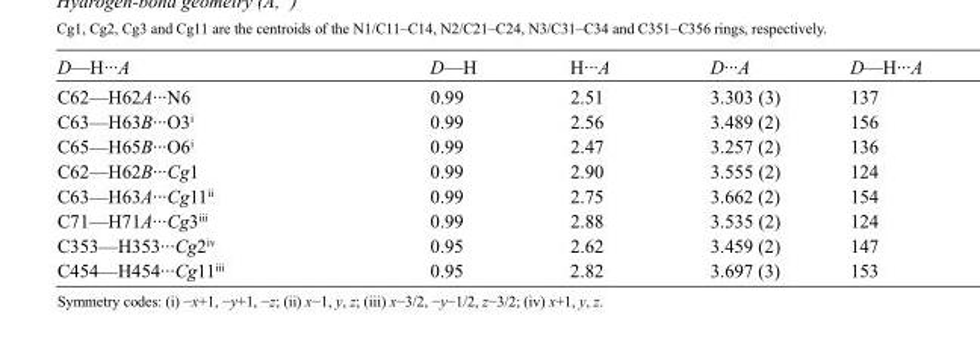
<table><tbody><tr><td>D—H···A</td><td>D—H</td><td>H···A</td><td>D···A</td><td>D—H···A</td></tr><tr><td>C62—H62A···N6</td><td>0.99</td><td>2.51</td><td>3.303 (3)</td><td>137</td></tr><tr><td>C63—H63B···O3<sup>i</sup></td><td>0.99</td><td>2.56</td><td>3.489 (2)</td><td>156</td></tr><tr><td>C65—H65B···O6<sup>i</sup></td><td>0.99</td><td>2.47</td><td>3.257 (2)</td><td>136</td></tr><tr><td>C62—H62B···Cg1</td><td>0.99</td><td>2.90</td><td>3.555 (2)</td><td>124</td></tr><tr><td>C63—H63A···Cg11<sup>ii</sup></td><td>0.99</td><td>2.75</td><td>3.662 (2)</td><td>154</td></tr><tr><td>C71—H71A···Cg3<sup>iii</sup></td><td>0.99</td><td>2.88</td><td>3.535 (2)</td><td>124</td></tr><tr><td>C353—H353···Cg2<sup>iv</sup></td><td>0.95</td><td>2.62</td><td>3.459 (2)</td><td>147</td></tr><tr><td>C454—H454···Cg11<sup>iii</sup></td><td>0.95</td><td>2.82</td><td>3.697 (3)</td><td>153</td></tr></tbody></table>